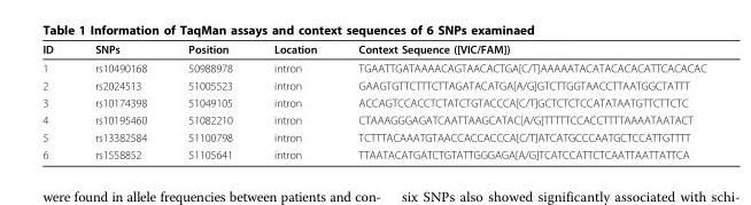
<table><thead><tr><td>ID</td><td>SNPs</td><td>Position</td><td>Location</td><td>Context Sequence ([VIC/FAM])</td></tr></thead><tbody><tr><td>1</td><td>rs10490168</td><td>50988978</td><td>intron</td><td>TGAATTGATAAAACAGTAACACTGA[C/T]AAAAATACATACACACATTCACACAC</td></tr><tr><td>2</td><td>rs2024513</td><td>51005523</td><td>intron</td><td>GAAGTGTTCTTTCTTAGATACATGA[A/G]GTCTTGGTAACCTTAATGGCTATTT</td></tr><tr><td>3</td><td>rs10174398</td><td>51049105</td><td>intron</td><td>ACCAGTCCACCTCTATCTGTACCCA[C/T]GCTCTCTCCATATAATGTTCTTCTC</td></tr><tr><td>4</td><td>rs10195460</td><td>51082210</td><td>intron</td><td>CTAAAGGGAGATCAATTAAGCATAC[A/G]TTTTTCCACCTTTTAAAATAATACT</td></tr><tr><td>5</td><td>rs13382584</td><td>51100798</td><td>intron</td><td>TCTTTACAAATGTAACCACCACCCA[C/T]ATCATGCCCAATGCTCCATTGTTTT</td></tr><tr><td>6</td><td>rs1558852</td><td>51105641</td><td>intron</td><td>TTAATACATGATCTGTATTGGGAGA[A/G]TCATCCATTCTCAATTAATTATTCA</td></tr></tbody></table>